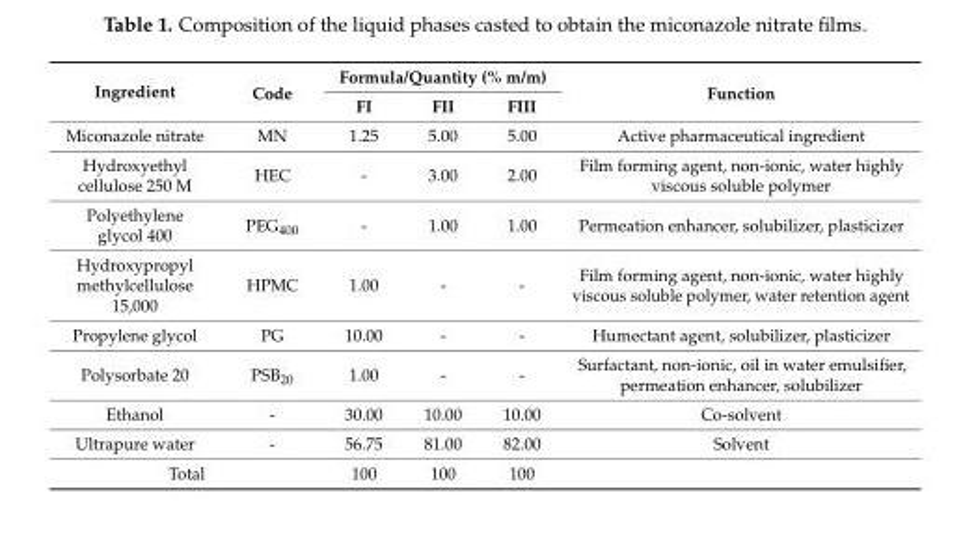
<table><thead><tr><td rowspan="2">Ingredient</td><td rowspan="2">Code</td><td colspan="3">Formula/Quantity (% m/m)</td><td rowspan="2">Function</td></tr><tr><td>FI</td><td>FII</td><td>FIII</td></tr></thead><tbody><tr><td>Miconazole nitrate</td><td>MN</td><td>1.25</td><td>5.00</td><td>5.00</td><td>Active pharmaceutical ingredient</td></tr><tr><td>Hydroxyethyl cellulose 250 M</td><td>HEC</td><td>-</td><td>3.00</td><td>2.00</td><td>Film forming agent, non-ionic, water highly viscous soluble polymer</td></tr><tr><td>Polyethylene glycol 400</td><td>PEG<sub>400</sub></td><td>-</td><td>1.00</td><td>1.00</td><td>Permeation enhancer, solubilizer, plasticizer</td></tr><tr><td>Hydroxypropyl methylcellulose 15,000</td><td>HPMC</td><td>1.00</td><td>-</td><td>-</td><td>Film forming agent, non-ionic, water highly viscous soluble polymer, water retention agent</td></tr><tr><td>Propylene glycol</td><td>PG</td><td>10.00</td><td>-</td><td>-</td><td>Humectant agent, solubilizer, plasticizer</td></tr><tr><td>Polysorbate 20</td><td>PSB<sub>20</sub></td><td>1.00</td><td>-</td><td>-</td><td>Surfactant, non-ionic, oil in water emulsifier, permeation enhancer, solubilizer</td></tr><tr><td>Ethanol</td><td>-</td><td>30.00</td><td>10.00</td><td>10.00</td><td>Co-solvent</td></tr><tr><td>Ultrapure water</td><td>-</td><td>56.75</td><td>81.00</td><td>82.00</td><td>Solvent</td></tr><tr><td colspan="2">Total</td><td>100</td><td>100</td><td>100</td><td></td></tr></tbody></table>